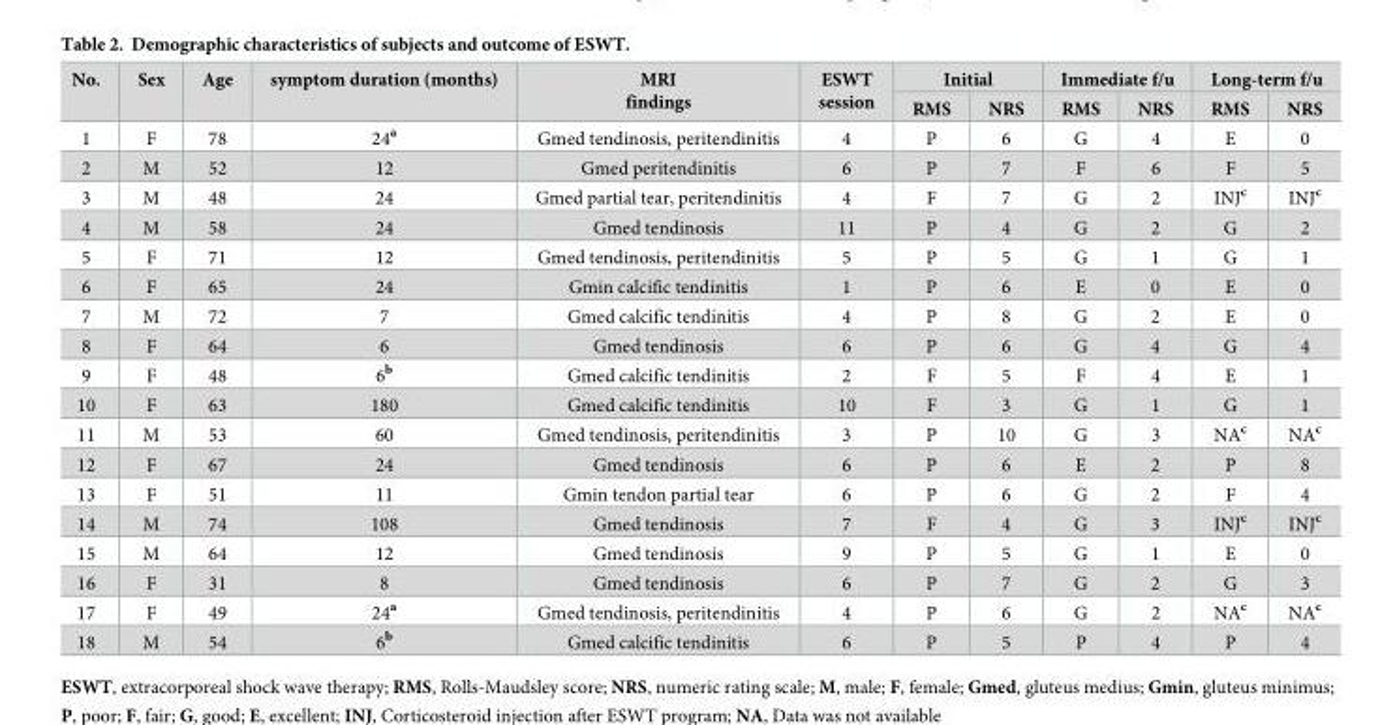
<table><thead><tr><td rowspan="2">No.</td><td rowspan="2">Sex</td><td rowspan="2">Age</td><td rowspan="2">symptom duration (months)</td><td rowspan="2">MRI findings</td><td rowspan="2">ESWT session</td><td colspan="2">Initial</td><td colspan="2">Immediate f/u</td><td colspan="2">Long-term f/u</td></tr><tr><td>RMS</td><td>NRS</td><td>RMS</td><td>NRS</td><td>RMS</td><td>NRS</td></tr></thead><tbody><tr><td>1</td><td>F</td><td>78</td><td>24<sup>a</sup></td><td>Gmed tendinosis, peritendinitis</td><td>4</td><td>P</td><td>6</td><td>G</td><td>4</td><td>E</td><td>0</td></tr><tr><td>2</td><td>M</td><td>52</td><td>12</td><td>Gmed peritendinitis</td><td>6</td><td>P</td><td>7</td><td>F</td><td>6</td><td>F</td><td>5</td></tr><tr><td>3</td><td>M</td><td>48</td><td>24</td><td>Gmed partial tear, peritendinitis</td><td>4</td><td>F</td><td>7</td><td>G</td><td>2</td><td>INJ<sup>c</sup></td><td>INJ<sup>c</sup></td></tr><tr><td>4</td><td>M</td><td>58</td><td>24</td><td>Gmed tendinosis</td><td>11</td><td>P</td><td>4</td><td>G</td><td>2</td><td>G</td><td>2</td></tr><tr><td>5</td><td>F</td><td>71</td><td>12</td><td>Gmed tendinosis, peritendinitis</td><td>5</td><td>P</td><td>5</td><td>G</td><td>1</td><td>G</td><td>1</td></tr><tr><td>6</td><td>F</td><td>65</td><td>24</td><td>Gmin calcific tendinitis</td><td>1</td><td>P</td><td>6</td><td>E</td><td>0</td><td>E</td><td>0</td></tr><tr><td>7</td><td>M</td><td>72</td><td>7</td><td>Gmed calcific tendinitis</td><td>4</td><td>P</td><td>8</td><td>G</td><td>2</td><td>E</td><td>0</td></tr><tr><td>8</td><td>F</td><td>64</td><td>6</td><td>Gmed tendinosis</td><td>6</td><td>P</td><td>6</td><td>G</td><td>4</td><td>G</td><td>4</td></tr><tr><td>9</td><td>F</td><td>48</td><td>6<sup>b</sup></td><td>Gmed calcific tendinitis</td><td>2</td><td>F</td><td>5</td><td>F</td><td>4</td><td>E</td><td>1</td></tr><tr><td>10</td><td>F</td><td>63</td><td>180</td><td>Gmed calcific tendinitis</td><td>10</td><td>F</td><td>3</td><td>G</td><td>1</td><td>G</td><td>1</td></tr><tr><td>11</td><td>M</td><td>53</td><td>60</td><td>Gmed tendinosis, peritendinitis</td><td>3</td><td>P</td><td>10</td><td>G</td><td>3</td><td>NA<sup>c</sup></td><td>NA<sup>c</sup></td></tr><tr><td>12</td><td>F</td><td>67</td><td>24</td><td>Gmed tendinosis</td><td>6</td><td>P</td><td>6</td><td>E</td><td>2</td><td>P</td><td>8</td></tr><tr><td>13</td><td>F</td><td>51</td><td>11</td><td>Gmin tendon partial tear</td><td>6</td><td>P</td><td>6</td><td>G</td><td>2</td><td>F</td><td>4</td></tr><tr><td>14</td><td>M</td><td>74</td><td>108</td><td>Gmed tendinosis</td><td>7</td><td>F</td><td>4</td><td>G</td><td>3</td><td>INJ<sup>c</sup></td><td>INJ<sup>c</sup></td></tr><tr><td>15</td><td>M</td><td>64</td><td>12</td><td>Gmed tendinosis</td><td>9</td><td>P</td><td>5</td><td>G</td><td>1</td><td>E</td><td>0</td></tr><tr><td>16</td><td>F</td><td>31</td><td>8</td><td>Gmed tendinosis</td><td>6</td><td>P</td><td>7</td><td>G</td><td>2</td><td>G</td><td>3</td></tr><tr><td>17</td><td>F</td><td>49</td><td>24<sup>a</sup></td><td>Gmed tendinosis, peritendinitis</td><td>4</td><td>P</td><td>6</td><td>G</td><td>2</td><td>NA<sup>c</sup></td><td>NA<sup>c</sup></td></tr><tr><td>18</td><td>M</td><td>54</td><td>6<sup>b</sup></td><td>Gmed calcific tendinitis</td><td>6</td><td>P</td><td>5</td><td>P</td><td>4</td><td>P</td><td>4</td></tr></tbody></table>